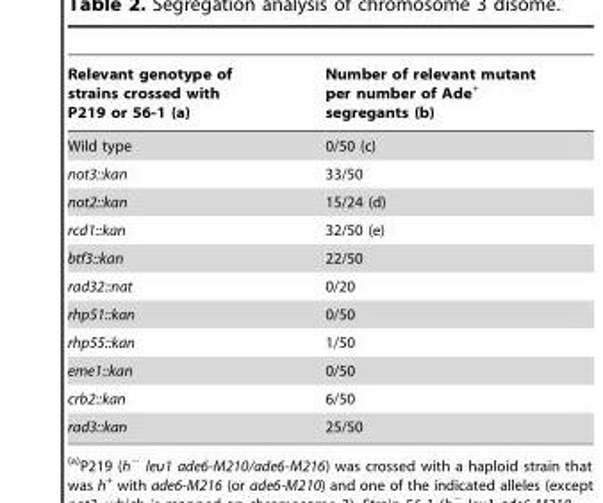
<table><thead><tr><td>Relevant genotype of strains crossed with P219 or 56-1 (a)</td><td>Number of relevant mutant per number of Ade<sup>+</sup> segregants (b)</td></tr></thead><tbody><tr><td>Wild type</td><td>0/50 (c)</td></tr><tr><td>not3::kan</td><td>33/50</td></tr><tr><td>not2::kan</td><td>15/24 (d)</td></tr><tr><td>rcd1::kan</td><td>32/50 (e)</td></tr><tr><td>btf3::kan</td><td>22/50</td></tr><tr><td>rad32::nat</td><td>0/20</td></tr><tr><td>rhp51::kan</td><td>0/50</td></tr><tr><td>rhp55::kan</td><td>1/50</td></tr><tr><td>eme1::kan</td><td>0/50</td></tr><tr><td>crb2::kan</td><td>6/50</td></tr><tr><td>rad3::kan</td><td>25/50</td></tr></tbody></table>